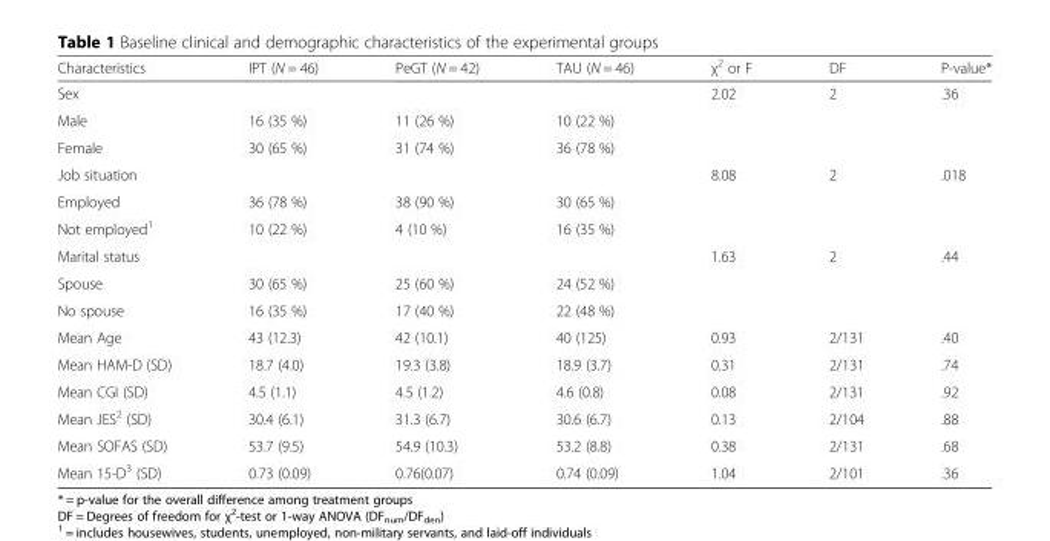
<table><thead><tr><td>Characteristics</td><td>IPT (N = 46)</td><td>PeGT (N = 42)</td><td>TAU (N = 46)</td><td>χ<sup>2</sup> or F</td><td>DF</td><td>P-value*</td></tr></thead><tbody><tr><td>Sex</td><td></td><td></td><td></td><td>2.02</td><td>2</td><td>.36</td></tr><tr><td>Male</td><td>16 (35 %)</td><td>11 (26 %)</td><td>10 (22 %)</td><td></td><td></td><td></td></tr><tr><td>Female</td><td>30 (65 %)</td><td>31 (74 %)</td><td>36 (78 %)</td><td></td><td></td><td></td></tr><tr><td>Job situation</td><td></td><td></td><td></td><td>8.08</td><td>2</td><td>.018</td></tr><tr><td>Employed</td><td>36 (78 %)</td><td>38 (90 %)</td><td>30 (65 %)</td><td></td><td></td><td></td></tr><tr><td>Not employed<sup>1</sup></td><td>10 (22 %)</td><td>4 (10 %)</td><td>16 (35 %)</td><td></td><td></td><td></td></tr><tr><td>Marital status</td><td></td><td></td><td></td><td>1.63</td><td>2</td><td>.44</td></tr><tr><td>Spouse</td><td>30 (65 %)</td><td>25 (60 %)</td><td>24 (52 %)</td><td></td><td></td><td></td></tr><tr><td>No spouse</td><td>16 (35 %)</td><td>17 (40 %)</td><td>22 (48 %)</td><td></td><td></td><td></td></tr><tr><td>Mean Age</td><td>43 (12.3)</td><td>42 (10.1)</td><td>40 (125)</td><td>0.93</td><td>2/131</td><td>.40</td></tr><tr><td>Mean HAM-D (SD)</td><td>18.7 (4.0)</td><td>19.3 (3.8)</td><td>18.9 (3.7)</td><td>0.31</td><td>2/131</td><td>.74</td></tr><tr><td>Mean CGI (SD)</td><td>4.5 (1.1)</td><td>4.5 (1.2)</td><td>4.6 (0.8)</td><td>0.08</td><td>2/131</td><td>.92</td></tr><tr><td>Mean JES<sup>2</sup> (SD)</td><td>30.4 (6.1)</td><td>31.3 (6.7)</td><td>30.6 (6.7)</td><td>0.13</td><td>2/104</td><td>.88</td></tr><tr><td>Mean SOFAS (SD)</td><td>53.7 (9.5)</td><td>54.9 (10.3)</td><td>53.2 (8.8)</td><td>0.38</td><td>2/131</td><td>.68</td></tr><tr><td>Mean 15-D<sup>3</sup> (SD)</td><td>0.73 (0.09)</td><td>0.76(0.07)</td><td>0.74 (0.09)</td><td>1.04</td><td>2/101</td><td>.36</td></tr></tbody></table>